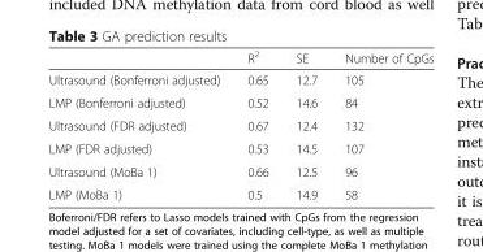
<table><thead><tr><td></td><td>R<sup>2</sup></td><td>SE</td><td>Number of CpGs</td></tr></thead><tbody><tr><td>Ultrasound (Bonferroni adjusted)</td><td>0.65</td><td>12.7</td><td>105</td></tr><tr><td>LMP (Bonferroni adjusted)</td><td>0.52</td><td>14.6</td><td>84</td></tr><tr><td>Ultrasound (FDR adjusted)</td><td>0.67</td><td>12.4</td><td>132</td></tr><tr><td>LMP (FDR adjusted)</td><td>0.53</td><td>14.5</td><td>107</td></tr><tr><td>Ultrasound (MoBa 1)</td><td>0.66</td><td>12.5</td><td>96</td></tr><tr><td>LMP (MoBa 1)</td><td>0.5</td><td>14.9</td><td>58</td></tr></tbody></table>